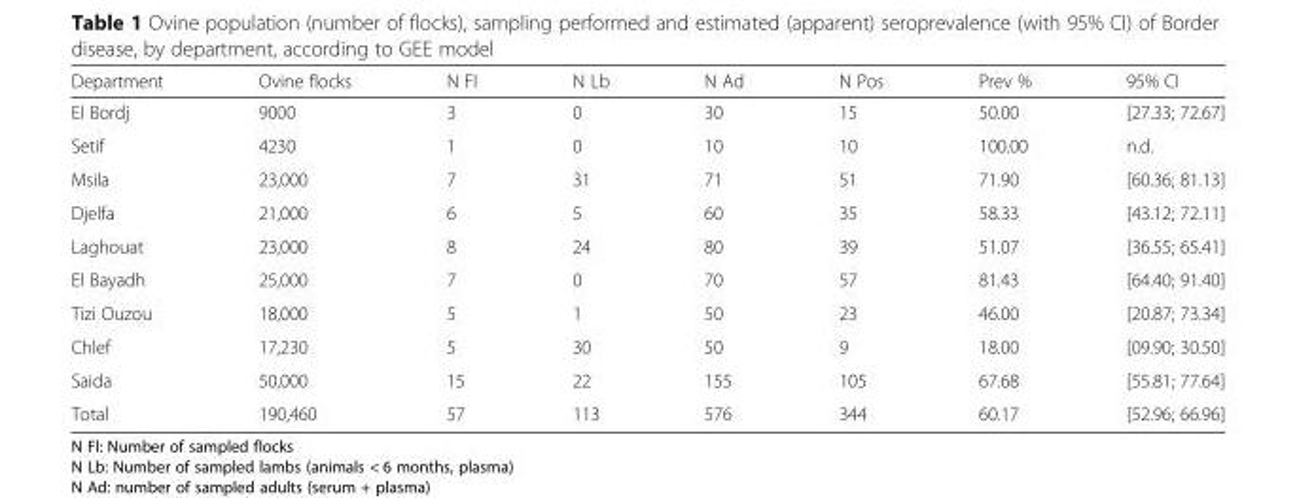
<table><thead><tr><td>Department</td><td>Ovine flocks</td><td>N Fl</td><td>N Lb</td><td>N Ad</td><td>N Pos</td><td>Prev %</td><td>95% CI</td></tr></thead><tbody><tr><td>El Bordj</td><td>9000</td><td>3</td><td>0</td><td>30</td><td>15</td><td>50.00</td><td>[27.33; 72.67]</td></tr><tr><td>Setif</td><td>4230</td><td>1</td><td>0</td><td>10</td><td>10</td><td>100.00</td><td>n.d.</td></tr><tr><td>Msila</td><td>23,000</td><td>7</td><td>31</td><td>71</td><td>51</td><td>71.90</td><td>[60.36; 81.13]</td></tr><tr><td>Djelfa</td><td>21,000</td><td>6</td><td>5</td><td>60</td><td>35</td><td>58.33</td><td>[43.12; 72.11]</td></tr><tr><td>Laghouat</td><td>23,000</td><td>8</td><td>24</td><td>80</td><td>39</td><td>51.07</td><td>[36.55; 65.41]</td></tr><tr><td>El Bayadh</td><td>25,000</td><td>7</td><td>0</td><td>70</td><td>57</td><td>81.43</td><td>[64.40; 91.40]</td></tr><tr><td>Tizi Ouzou</td><td>18,000</td><td>5</td><td>1</td><td>50</td><td>23</td><td>46.00</td><td>[20.87; 73.34]</td></tr><tr><td>Chlef</td><td>17,230</td><td>5</td><td>30</td><td>50</td><td>9</td><td>18.00</td><td>[09.90; 30.50]</td></tr><tr><td>Saida</td><td>50,000</td><td>15</td><td>22</td><td>155</td><td>105</td><td>67.68</td><td>[55.81; 77.64]</td></tr><tr><td>Total</td><td>190,460</td><td>57</td><td>113</td><td>576</td><td>344</td><td>60.17</td><td>[52.96; 66.96]</td></tr></tbody></table>